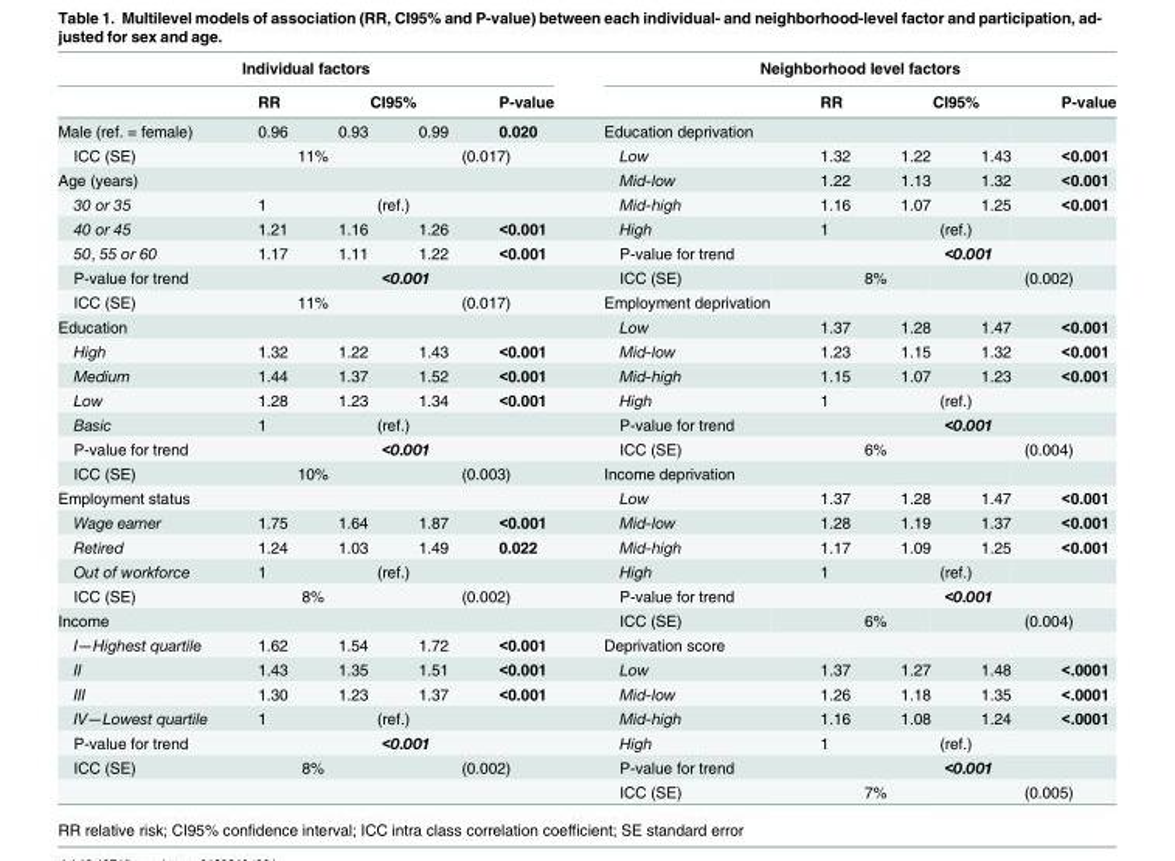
<table><thead><tr><td colspan="5">Individual factors</td><td colspan="5">Neighborhood level factors</td></tr><tr><td rowspan="2">Male (ref. = female)</td><td rowspan="2">RR 0.96</td><td colspan="2">CI95%</td><td rowspan="2">P-value 0.020</td><td rowspan="2">Education deprivation</td><td rowspan="2">RR</td><td colspan="2">CI95%</td><td rowspan="2">P-value</td></tr><tr><td>0.93</td><td>0.99</td><td></td><td></td></tr></thead><tbody><tr><td>ICC (SE)</td><td colspan="2">11%</td><td colspan="2">(0.017)</td><td>Low</td><td>1.32</td><td>1.22</td><td>1.43</td><td>&lt;0.001</td></tr><tr><td>Age (years)</td><td></td><td></td><td></td><td></td><td>Mid-low</td><td>1.22</td><td>1.13</td><td>1.32</td><td>&lt;0.001</td></tr><tr><td>30 or 35</td><td>1</td><td colspan="2">(ref.)</td><td></td><td>Mid-high</td><td>1.16</td><td>1.07</td><td>1.25</td><td>&lt;0.001</td></tr><tr><td>40 or 45</td><td>1.21</td><td>1.16</td><td>1.26</td><td>&lt;0.001</td><td>High</td><td>1</td><td colspan="2">(ref.)</td><td></td></tr><tr><td>50, 55 or 60</td><td>1.17</td><td>1.11</td><td>1.22</td><td>&lt;0.001</td><td>P-value for trend</td><td colspan="4">&lt;0.001</td></tr><tr><td>P-value for trend</td><td colspan="4">&lt;0.001</td><td>ICC (SE)</td><td colspan="2">8%</td><td colspan="2">(0.002)</td></tr><tr><td>ICC (SE)</td><td colspan="2">11%</td><td colspan="2">(0.017)</td><td>Employment deprivation</td><td></td><td></td><td></td><td></td></tr><tr><td>Education</td><td></td><td></td><td></td><td></td><td>Low</td><td>1.37</td><td>1.28</td><td>1.47</td><td>&lt;0.001</td></tr><tr><td>High</td><td>1.32</td><td>1.22</td><td>1.43</td><td>&lt;0.001</td><td>Mid-low</td><td>1.23</td><td>1.15</td><td>1.32</td><td>&lt;0.001</td></tr><tr><td>Medium</td><td>1.44</td><td>1.37</td><td>1.52</td><td>&lt;0.001</td><td>Mid-high</td><td>1.15</td><td>1.07</td><td>1.23</td><td>&lt;0.001</td></tr><tr><td>Low</td><td>1.28</td><td>1.23</td><td>1.34</td><td>&lt;0.001</td><td>High</td><td>1</td><td colspan="2">(ref.)</td><td></td></tr><tr><td>Basic</td><td>1</td><td colspan="2">(ref.)</td><td></td><td>P-value for trend</td><td colspan="4">&lt;0.001</td></tr><tr><td>P-value for trend</td><td colspan="4">&lt;0.001</td><td>ICC (SE)</td><td colspan="2">6%</td><td colspan="2">(0.004)</td></tr><tr><td>ICC (SE)</td><td colspan="2">10%</td><td colspan="2">(0.003)</td><td>Income deprivation</td><td></td><td></td><td></td><td></td></tr><tr><td>Employment status</td><td></td><td></td><td></td><td></td><td>Low</td><td>1.37</td><td>1.28</td><td>1.47</td><td>&lt;0.001</td></tr><tr><td>Wage earner</td><td>1.75</td><td>1.64</td><td>1.87</td><td>&lt;0.001</td><td>Mid-low</td><td>1.28</td><td>1.19</td><td>1.37</td><td>&lt;0.001</td></tr><tr><td>Retired</td><td>1.24</td><td>1.03</td><td>1.49</td><td>0.022</td><td>Mid-high</td><td>1.17</td><td>1.09</td><td>1.25</td><td>&lt;0.001</td></tr><tr><td>Out of workforce</td><td>1</td><td colspan="2">(ref.)</td><td></td><td>High</td><td>1</td><td colspan="2">(ref.)</td><td></td></tr><tr><td>ICC (SE)</td><td colspan="2">8%</td><td colspan="2">(0.002)</td><td>P-value for trend</td><td colspan="4">&lt;0.001</td></tr><tr><td>Income</td><td></td><td></td><td></td><td></td><td>ICC (SE)</td><td colspan="2">6%</td><td colspan="2">(0.004)</td></tr><tr><td>I—Highest quartile</td><td>1.62</td><td>1.54</td><td>1.72</td><td>&lt;0.001</td><td>Deprivation score</td><td></td><td></td><td></td><td></td></tr><tr><td>II</td><td>1.43</td><td>1.35</td><td>1.51</td><td>&lt;0.001</td><td>Low</td><td>1.37</td><td>1.27</td><td>1.48</td><td>&lt;.0001</td></tr><tr><td>III</td><td>1.30</td><td>1.23</td><td>1.37</td><td>&lt;0.001</td><td>Mid-low</td><td>1.26</td><td>1.18</td><td>1.35</td><td>&lt;.0001</td></tr><tr><td>IV—Lowest quartile</td><td>1</td><td colspan="2">(ref.)</td><td></td><td>Mid-high</td><td>1.16</td><td>1.08</td><td>1.24</td><td>&lt;.0001</td></tr><tr><td>P-value for trend</td><td colspan="4">&lt;0.001</td><td>High</td><td>1</td><td colspan="2">(ref.)</td><td></td></tr><tr><td rowspan="2">ICC (SE)</td><td colspan="2">8%</td><td colspan="2">(0.002)</td><td>P-value for trend</td><td colspan="4">&lt;0.001</td></tr><tr><td></td><td></td><td></td><td></td><td>ICC (SE)</td><td colspan="2">7%</td><td colspan="2">(0.005)</td></tr></tbody></table>